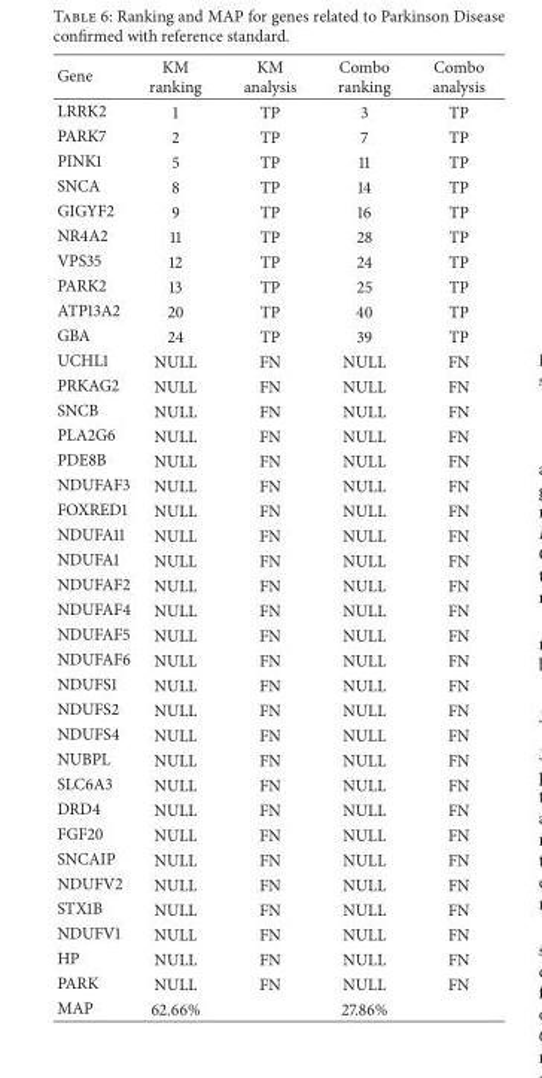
<table><thead><tr><td>Gene</td><td>KM ranking</td><td>KM analysis</td><td>Combo ranking</td><td>Combo analysis</td></tr></thead><tbody><tr><td>LRRK2</td><td>1</td><td>TP</td><td>3</td><td>TP</td></tr><tr><td>PARK7</td><td>2</td><td>TP</td><td>7</td><td>TP</td></tr><tr><td>PINK1</td><td>5</td><td>TP</td><td>11</td><td>TP</td></tr><tr><td>SNCA</td><td>8</td><td>TP</td><td>14</td><td>TP</td></tr><tr><td>GIGYF2</td><td>9</td><td>TP</td><td>16</td><td>TP</td></tr><tr><td>NR4A2</td><td>11</td><td>TP</td><td>28</td><td>TP</td></tr><tr><td>VPS35</td><td>12</td><td>TP</td><td>24</td><td>TP</td></tr><tr><td>PARK2</td><td>13</td><td>TP</td><td>25</td><td>TP</td></tr><tr><td>ATP13A2</td><td>20</td><td>TP</td><td>40</td><td>TP</td></tr><tr><td>GBA</td><td>24</td><td>TP</td><td>39</td><td>TP</td></tr><tr><td>UCHL1</td><td>NULL</td><td>FN</td><td>NULL</td><td>FN</td></tr><tr><td>PRKAG2</td><td>NULL</td><td>FN</td><td>NULL</td><td>FN</td></tr><tr><td>SNCB</td><td>NULL</td><td>FN</td><td>NULL</td><td>FN</td></tr><tr><td>PLA2G6</td><td>NULL</td><td>FN</td><td>NULL</td><td>FN</td></tr><tr><td>PDE8B</td><td>NULL</td><td>FN</td><td>NULL</td><td>FN</td></tr><tr><td>NDUFAF3</td><td>NULL</td><td>FN</td><td>NULL</td><td>FN</td></tr><tr><td>FOXRED1</td><td>NULL</td><td>FN</td><td>NULL</td><td>FN</td></tr><tr><td>NDUFA11</td><td>NULL</td><td>FN</td><td>NULL</td><td>FN</td></tr><tr><td>NDUFA1</td><td>NULL</td><td>FN</td><td>NULL</td><td>FN</td></tr><tr><td>NDUFAF2</td><td>NULL</td><td>FN</td><td>NULL</td><td>FN</td></tr><tr><td>NDUFAF4</td><td>NULL</td><td>FN</td><td>NULL</td><td>FN</td></tr><tr><td>NDUFAF5</td><td>NULL</td><td>FN</td><td>NULL</td><td>FN</td></tr><tr><td>NDUFAF6</td><td>NULL</td><td>FN</td><td>NULL</td><td>FN</td></tr><tr><td>NDUFS1</td><td>NULL</td><td>FN</td><td>NULL</td><td>FN</td></tr><tr><td>NDUFS2</td><td>NULL</td><td>FN</td><td>NULL</td><td>FN</td></tr><tr><td>NDUFS4</td><td>NULL</td><td>FN</td><td>NULL</td><td>FN</td></tr><tr><td>NUBPL</td><td>NULL</td><td>FN</td><td>NULL</td><td>FN</td></tr><tr><td>SLC6A3</td><td>NULL</td><td>FN</td><td>NULL</td><td>FN</td></tr><tr><td>DRD4</td><td>NULL</td><td>FN</td><td>NULL</td><td>FN</td></tr><tr><td>FGF20</td><td>NULL</td><td>FN</td><td>NULL</td><td>FN</td></tr><tr><td>SNCAIP</td><td>NULL</td><td>FN</td><td>NULL</td><td>FN</td></tr><tr><td>NDUFV2</td><td>NULL</td><td>FN</td><td>NULL</td><td>FN</td></tr><tr><td>STX1B</td><td>NULL</td><td>FN</td><td>NULL</td><td>FN</td></tr><tr><td>NDUFV1</td><td>NULL</td><td>FN</td><td>NULL</td><td>FN</td></tr><tr><td>HP</td><td>NULL</td><td>FN</td><td>NULL</td><td>FN</td></tr><tr><td>PARK</td><td>NULL</td><td>FN</td><td>NULL</td><td>FN</td></tr><tr><td>MAP</td><td>62.66%</td><td></td><td>27.86%</td><td></td></tr></tbody></table>